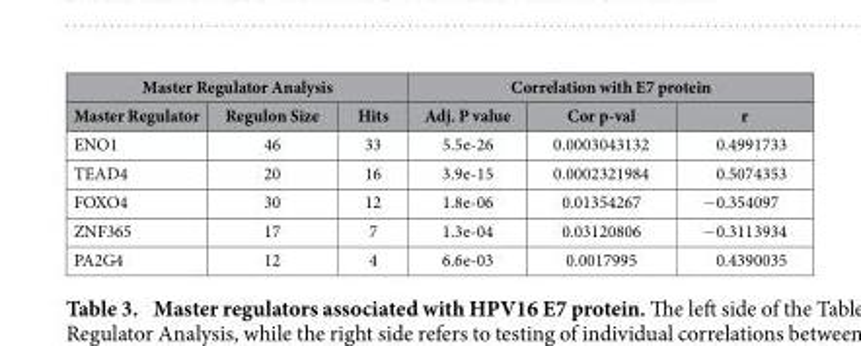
<table><thead><tr><td colspan="3">Master Regulator Analysis</td><td colspan="3">Correlation with E7 protein</td></tr><tr><td>Master Regulator</td><td>Regulon Size</td><td>Hits</td><td>Adj. P value</td><td>Cor p-val</td><td>r</td></tr></thead><tbody><tr><td>ENO1</td><td>46</td><td>33</td><td>5.5e-26</td><td>0.0003043132</td><td>0.4991733</td></tr><tr><td>TEAD4</td><td>20</td><td>16</td><td>3.9e-15</td><td>0.0002321984</td><td>0.5074353</td></tr><tr><td>FOXO4</td><td>30</td><td>12</td><td>1.8e-06</td><td>0.01354267</td><td>− 0.354097</td></tr><tr><td>ZNF365</td><td>17</td><td>7</td><td>1.3e-04</td><td>0.03120806</td><td>− 0.3113934</td></tr><tr><td>PA2G4</td><td>12</td><td>4</td><td>6.6e-03</td><td>0.0017995</td><td>0.4390035</td></tr></tbody></table>